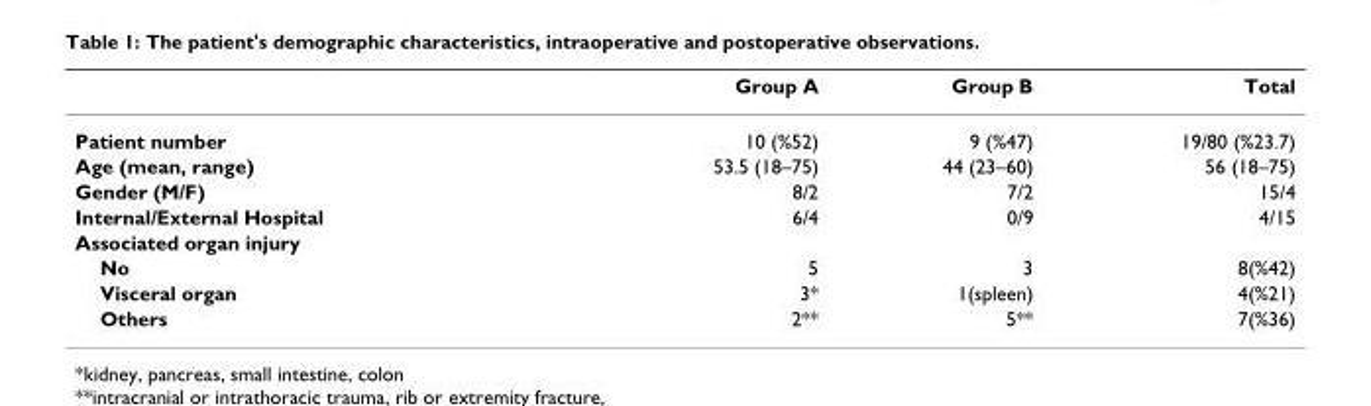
<table><thead><tr><td></td><td>Group A</td><td>Group B</td><td>Total</td></tr></thead><tbody><tr><td>Patient number</td><td>10 (%52)</td><td>9 (%47)</td><td>19/80 (%23.7)</td></tr><tr><td>Age (mean, range)</td><td>53.5 (18–75)</td><td>44 (23–60)</td><td>56 (18–75)</td></tr><tr><td>Gender (M/F)</td><td>8/2</td><td>7/2</td><td>15/4</td></tr><tr><td>Internal/External Hospital</td><td>6/4</td><td>0/9</td><td>4/15</td></tr><tr><td colspan="4">Associated organ injury</td></tr><tr><td>No</td><td>5</td><td>3</td><td>8(%42)</td></tr><tr><td>Visceral organ</td><td>3*</td><td>1(spleen)</td><td>4(%21)</td></tr><tr><td>Others</td><td>2**</td><td>5**</td><td>7(%36)</td></tr></tbody></table>